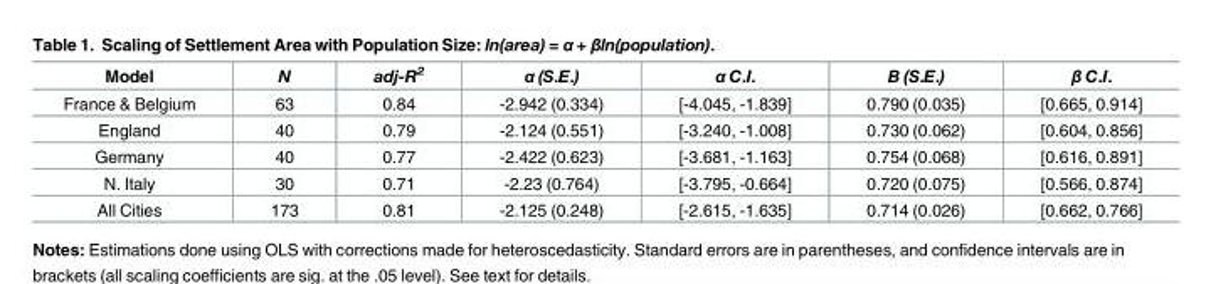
<table><thead><tr><td>Model</td><td>N</td><td>adj-R<sup>2</sup></td><td>α (S.E.)</td><td>α C.I.</td><td>Β (S.E.)</td><td>β C.I.</td></tr></thead><tbody><tr><td>France &amp; Belgium</td><td>63</td><td>0.84</td><td>-2.942 (0.334)</td><td>[-4.045, -1.839]</td><td>0.790 (0.035)</td><td>[0.665, 0.914]</td></tr><tr><td>England</td><td>40</td><td>0.79</td><td>-2.124 (0.551)</td><td>[-3.240, -1.008]</td><td>0.730 (0.062)</td><td>[0.604, 0.856]</td></tr><tr><td>Germany</td><td>40</td><td>0.77</td><td>-2.422 (0.623)</td><td>[-3.681, -1.163]</td><td>0.754 (0.068)</td><td>[0.616, 0.891]</td></tr><tr><td>N. Italy</td><td>30</td><td>0.71</td><td>-2.23 (0.764)</td><td>[-3.795, -0.664]</td><td>0.720 (0.075)</td><td>[0.566, 0.874]</td></tr><tr><td>All Cities</td><td>173</td><td>0.81</td><td>-2.125 (0.248)</td><td>[-2.615, -1.635]</td><td>0.714 (0.026)</td><td>[0.662, 0.766]</td></tr></tbody></table>